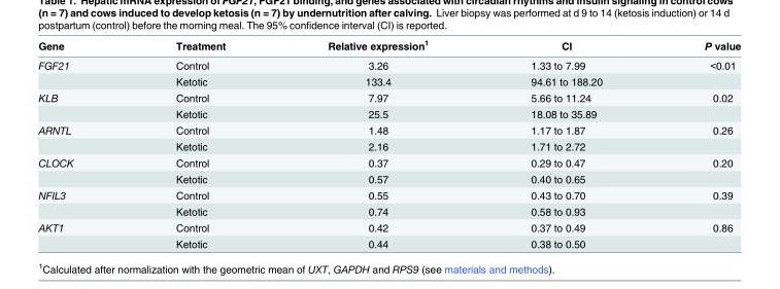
<table><thead><tr><td>Gene</td><td>Treatment</td><td>Relative expression<sup>1</sup></td><td>CI</td><td>P value</td></tr></thead><tbody><tr><td rowspan="2">FGF21</td><td>Control</td><td>3.26</td><td>1.33 to 7.99</td><td>&lt;0.01</td></tr><tr><td>Ketotic</td><td>133.4</td><td>94.61 to 188.20</td><td></td></tr><tr><td rowspan="2">KLB</td><td>Control</td><td>7.97</td><td>5.66 to 11.24</td><td>0.02</td></tr><tr><td>Ketotic</td><td>25.5</td><td>18.08 to 35.89</td><td></td></tr><tr><td rowspan="2">ARNTL</td><td>Control</td><td>1.48</td><td>1.17 to 1.87</td><td>0.26</td></tr><tr><td>Ketotic</td><td>2.16</td><td>1.71 to 2.72</td><td></td></tr><tr><td rowspan="2">CLOCK</td><td>Control</td><td>0.37</td><td>0.29 to 0.47</td><td>0.20</td></tr><tr><td>Ketotic</td><td>0.57</td><td>0.40 to 0.65</td><td></td></tr><tr><td rowspan="2">NFIL3</td><td>Control</td><td>0.55</td><td>0.43 to 0.70</td><td>0.39</td></tr><tr><td>Ketotic</td><td>0.74</td><td>0.58 to 0.93</td><td></td></tr><tr><td rowspan="2">AKT1</td><td>Control</td><td>0.42</td><td>0.37 to 0.49</td><td>0.86</td></tr><tr><td>Ketotic</td><td>0.44</td><td>0.38 to 0.50</td><td></td></tr></tbody></table>